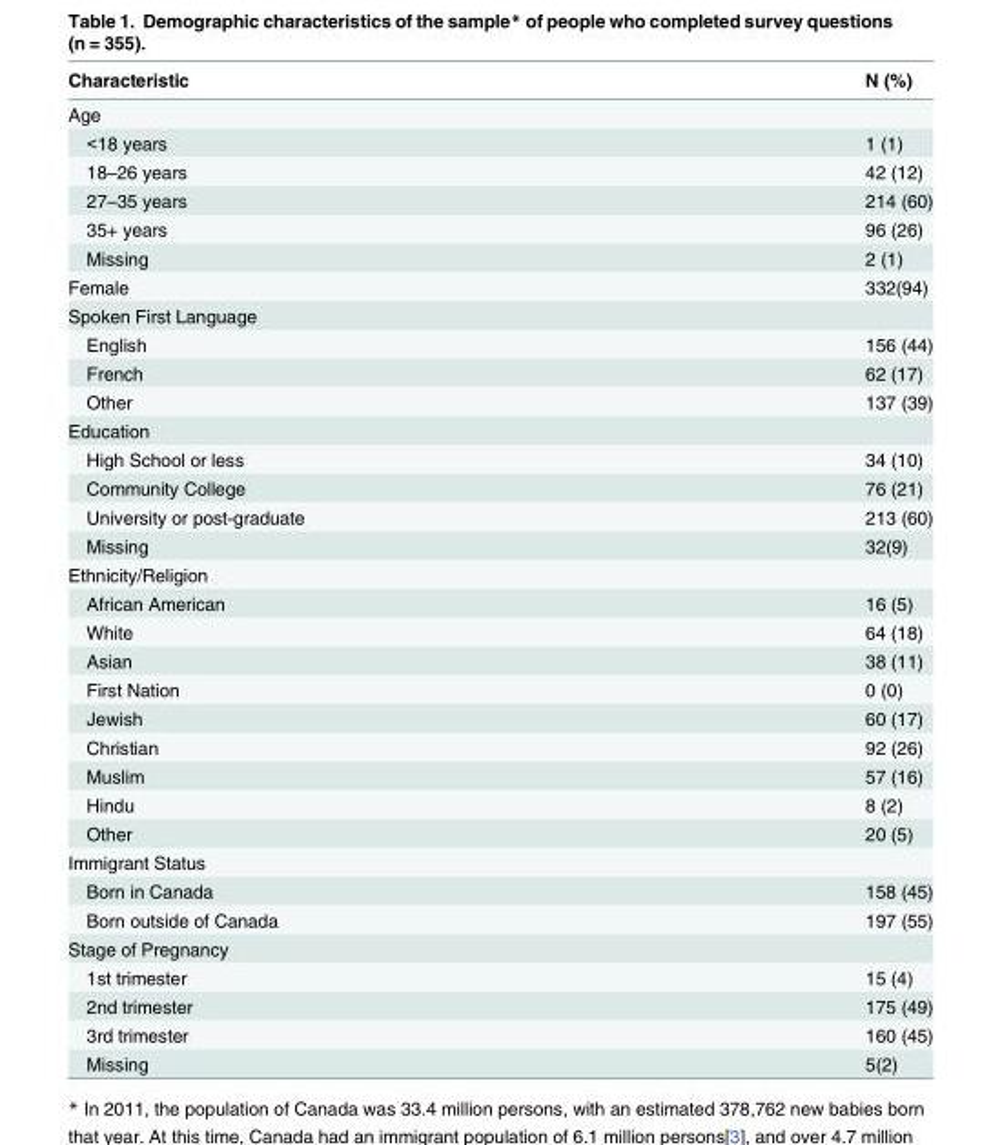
<table><thead><tr><td>Characteristic</td><td>N (%)</td></tr></thead><tbody><tr><td colspan="2">Age</td></tr><tr><td>&lt;18 years</td><td>1 (1)</td></tr><tr><td>18–26 years</td><td>42 (12)</td></tr><tr><td>27–35 years</td><td>214 (60)</td></tr><tr><td>35+ years</td><td>96 (26)</td></tr><tr><td>Missing</td><td>2 (1)</td></tr><tr><td>Female</td><td>332(94)</td></tr><tr><td colspan="2">Spoken First Language</td></tr><tr><td>English</td><td>156 (44)</td></tr><tr><td>French</td><td>62 (17)</td></tr><tr><td>Other</td><td>137 (39)</td></tr><tr><td colspan="2">Education</td></tr><tr><td>High School or less</td><td>34 (10)</td></tr><tr><td>Community College</td><td>76 (21)</td></tr><tr><td>University or post-graduate</td><td>213 (60)</td></tr><tr><td>Missing</td><td>32(9)</td></tr><tr><td colspan="2">Ethnicity/Religion</td></tr><tr><td>African American</td><td>16 (5)</td></tr><tr><td>White</td><td>64 (18)</td></tr><tr><td>Asian</td><td>38 (11)</td></tr><tr><td>First Nation</td><td>0 (0)</td></tr><tr><td>Jewish</td><td>60 (17)</td></tr><tr><td>Christian</td><td>92 (26)</td></tr><tr><td>Muslim</td><td>57 (16)</td></tr><tr><td>Hindu</td><td>8 (2)</td></tr><tr><td>Other</td><td>20 (5)</td></tr><tr><td colspan="2">Immigrant Status</td></tr><tr><td>Born in Canada</td><td>158 (45)</td></tr><tr><td>Born outside of Canada</td><td>197 (55)</td></tr><tr><td colspan="2">Stage of Pregnancy</td></tr><tr><td>1st trimester</td><td>15 (4)</td></tr><tr><td>2nd trimester</td><td>175 (49)</td></tr><tr><td>3rd trimester</td><td>160 (45)</td></tr><tr><td>Missing</td><td>5(2)</td></tr></tbody></table>